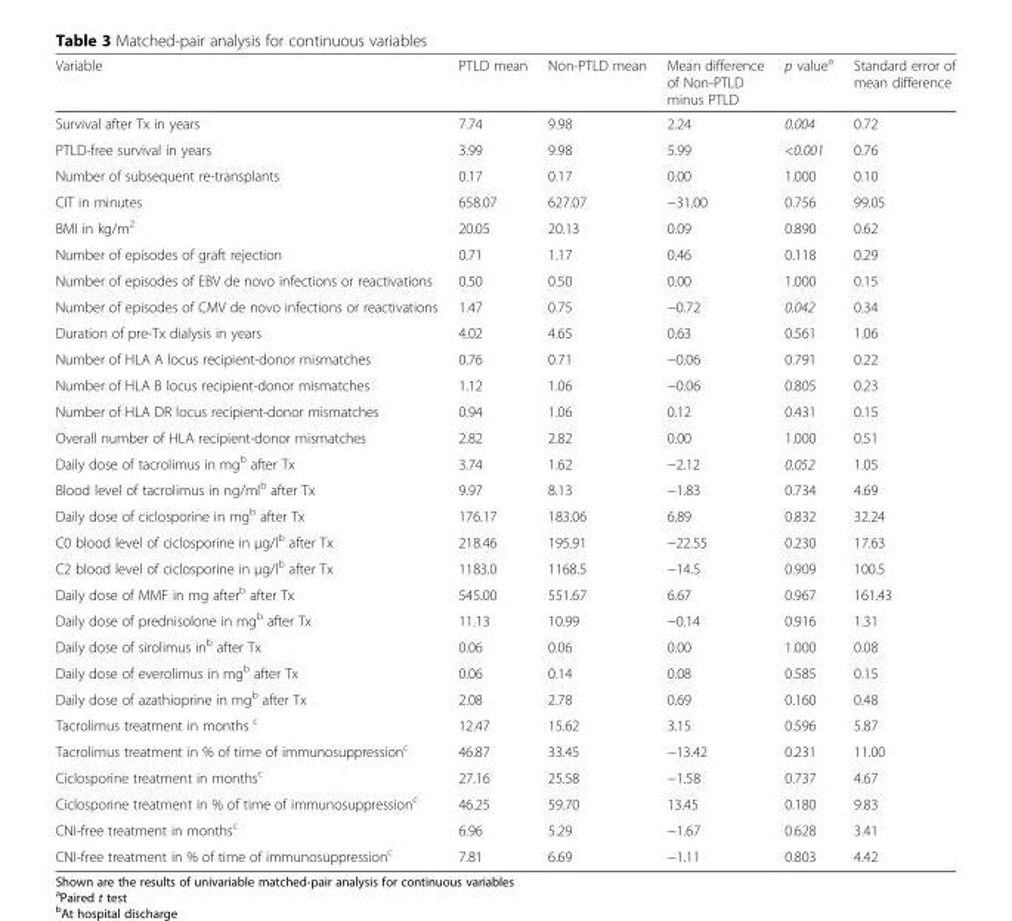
<table><thead><tr><td>Variable</td><td>PTLD mean</td><td>Non-PTLD mean</td><td>Mean difference of Non-PTLD minus PTLD</td><td>p value<sup>a</sup></td><td>Standard error of mean difference</td></tr></thead><tbody><tr><td>Survival after Tx in years</td><td>7.74</td><td>9.98</td><td>2.24</td><td>0.004</td><td>0.72</td></tr><tr><td>PTLD-free survival in years</td><td>3.99</td><td>9.98</td><td>5.99</td><td>&lt;0.001</td><td>0.76</td></tr><tr><td>Number of subsequent re-transplants</td><td>0.17</td><td>0.17</td><td>0.00</td><td>1.000</td><td>0.10</td></tr><tr><td>CIT in minutes</td><td>658.07</td><td>627.07</td><td>−31.00</td><td>0.756</td><td>99.05</td></tr><tr><td>BMI in kg/m<sup>2</sup></td><td>20.05</td><td>20.13</td><td>0.09</td><td>0.890</td><td>0.62</td></tr><tr><td>Number of episodes of graft rejection</td><td>0.71</td><td>1.17</td><td>0.46</td><td>0.118</td><td>0.29</td></tr><tr><td>Number of episodes of EBV de novo infections or reactivations</td><td>0.50</td><td>0.50</td><td>0.00</td><td>1.000</td><td>0.15</td></tr><tr><td>Number of episodes of CMV de novo infections or reactivations</td><td>1.47</td><td>0.75</td><td>−0.72</td><td>0.042</td><td>0.34</td></tr><tr><td>Duration of pre-Tx dialysis in years</td><td>4.02</td><td>4.65</td><td>0.63</td><td>0.561</td><td>1.06</td></tr><tr><td>Number of HLA A locus recipient-donor mismatches</td><td>0.76</td><td>0.71</td><td>−0.06</td><td>0.791</td><td>0.22</td></tr><tr><td>Number of HLA B locus recipient-donor mismatches</td><td>1.12</td><td>1.06</td><td>−0.06</td><td>0.805</td><td>0.23</td></tr><tr><td>Number of HLA DR locus recipient-donor mismatches</td><td>0.94</td><td>1.06</td><td>0.12</td><td>0.431</td><td>0.15</td></tr><tr><td>Overall number of HLA recipient-donor mismatches</td><td>2.82</td><td>2.82</td><td>0.00</td><td>1.000</td><td>0.51</td></tr><tr><td>Daily dose of tacrolimus in mg<sup>b</sup> after Tx</td><td>3.74</td><td>1.62</td><td>−2.12</td><td>0.052</td><td>1.05</td></tr><tr><td>Blood level of tacrolimus in ng/ml<sup>b</sup> after Tx</td><td>9.97</td><td>8.13</td><td>−1.83</td><td>0.734</td><td>4.69</td></tr><tr><td>Daily dose of ciclosporine in mg<sup>b</sup> after Tx</td><td>176.17</td><td>183.06</td><td>6.89</td><td>0.832</td><td>32.24</td></tr><tr><td>C0 blood level of ciclosporine in μg/l<sup>b</sup> after Tx</td><td>218.46</td><td>195.91</td><td>−22.55</td><td>0.230</td><td>17.63</td></tr><tr><td>C2 blood level of ciclosporine in μg/l<sup>b</sup> after Tx</td><td>1183.0</td><td>1168.5</td><td>−14.5</td><td>0.909</td><td>100.5</td></tr><tr><td>Daily dose of MMF in mg after<sup>b</sup> after Tx</td><td>545.00</td><td>551.67</td><td>6.67</td><td>0.967</td><td>161.43</td></tr><tr><td>Daily dose of prednisolone in mg<sup>b</sup> after Tx</td><td>11.13</td><td>10.99</td><td>−0.14</td><td>0.916</td><td>1.31</td></tr><tr><td>Daily dose of sirolimus in<sup>b</sup> after Tx</td><td>0.06</td><td>0.06</td><td>0.00</td><td>1.000</td><td>0.08</td></tr><tr><td>Daily dose of everolimus in mg<sup>b</sup> after Tx</td><td>0.06</td><td>0.14</td><td>0.08</td><td>0.585</td><td>0.15</td></tr><tr><td>Daily dose of azathioprine in mg<sup>b</sup> after Tx</td><td>2.08</td><td>2.78</td><td>0.69</td><td>0.160</td><td>0.48</td></tr><tr><td>Tacrolimus treatment in months <sup>c</sup></td><td>12.47</td><td>15.62</td><td>3.15</td><td>0.596</td><td>5.87</td></tr><tr><td>Tacrolimus treatment in % of time of immunosuppression<sup>c</sup></td><td>46.87</td><td>33.45</td><td>−13.42</td><td>0.231</td><td>11.00</td></tr><tr><td>Ciclosporine treatment in months<sup>c</sup></td><td>27.16</td><td>25.58</td><td>−1.58</td><td>0.737</td><td>4.67</td></tr><tr><td>Ciclosporine treatment in % of time of immunosuppression<sup>c</sup></td><td>46.25</td><td>59.70</td><td>13.45</td><td>0.180</td><td>9.83</td></tr><tr><td>CNI-free treatment in months<sup>c</sup></td><td>6.96</td><td>5.29</td><td>−1.67</td><td>0.628</td><td>3.41</td></tr><tr><td>CNI-free treatment in % of time of immunosuppression<sup>c</sup></td><td>7.81</td><td>6.69</td><td>−1.11</td><td>0.803</td><td>4.42</td></tr></tbody></table>